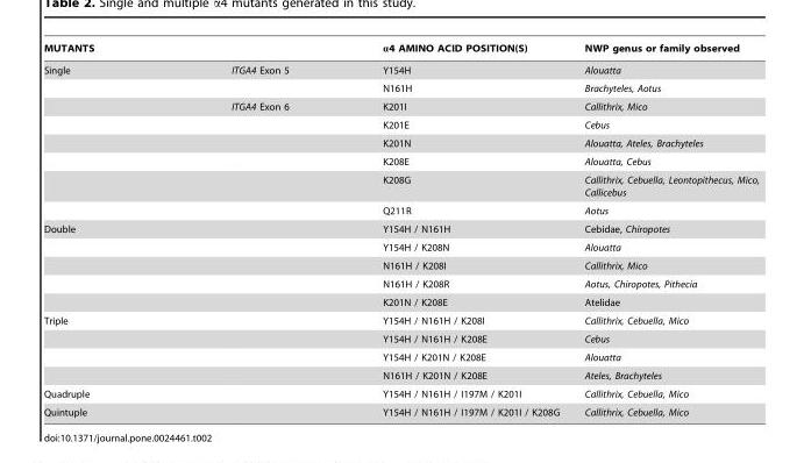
<table><thead><tr><td>MUTANTS</td><td></td><td>α4 AMINO ACID POSITION(S)</td><td>NWP genus or family observed</td></tr></thead><tbody><tr><td rowspan="8">Single</td><td>ITGA4 Exon 5</td><td>Y154H</td><td>Alouatta</td></tr><tr><td></td><td>N161H</td><td>Brachyteles, Aotus</td></tr><tr><td>ITGA4 Exon 6</td><td>K201I</td><td>Callithrix, Mico</td></tr><tr><td></td><td>K201E</td><td>Cebus</td></tr><tr><td></td><td>K201N</td><td>Alouatta, Ateles, Brachyteles</td></tr><tr><td></td><td>K208E</td><td>Alouatta, Cebus</td></tr><tr><td></td><td>K208G</td><td>Callithrix, Cebuella, Leontopithecus, Mico, Callicebus</td></tr><tr><td></td><td>Q211R</td><td>Aotus</td></tr><tr><td rowspan="5">Double</td><td></td><td>Y154H / N161H</td><td>Cebidae, Chiropotes</td></tr><tr><td></td><td>Y154H / K208N</td><td>Alouatta</td></tr><tr><td></td><td>N161H / K208I</td><td>Callithrix, Mico</td></tr><tr><td></td><td>N161H / K208R</td><td>Aotus, Chiropotes, Pithecia</td></tr><tr><td></td><td>K201N / K208E</td><td>Atelidae</td></tr><tr><td rowspan="4">Triple</td><td></td><td>Y154H / N161H / K208I</td><td>Callithrix, Cebuella, Mico</td></tr><tr><td></td><td>Y154H / N161H / K208E</td><td>Cebus</td></tr><tr><td></td><td>Y154H / K201N / K208E</td><td>Alouatta</td></tr><tr><td></td><td>N161H / K201N / K208E</td><td>Ateles, Brachyteles</td></tr><tr><td>Quadruple</td><td></td><td>Y154H / N161H / I197M / K201I</td><td>Callithrix, Cebuella, Mico</td></tr><tr><td>Quintuple</td><td></td><td>Y154H / N161H / I197M / K201I / K208G</td><td>Callithrix, Cebuella, Mico</td></tr></tbody></table>